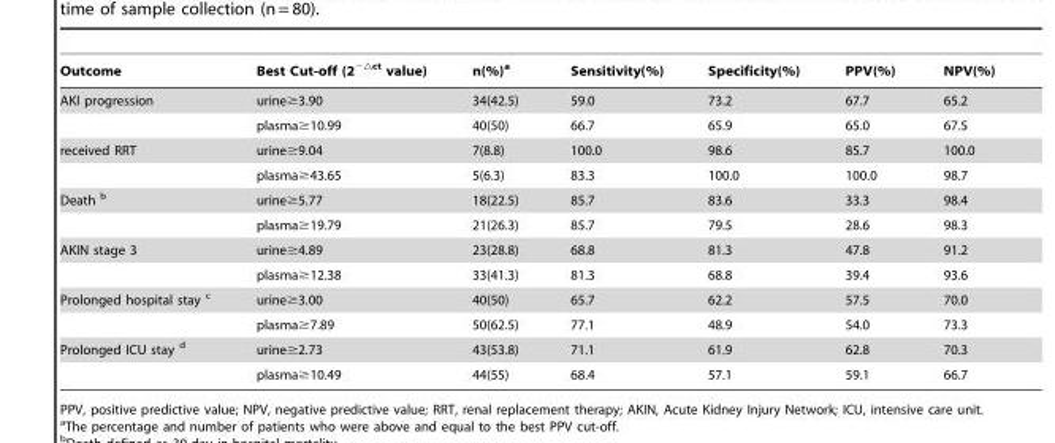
<table><thead><tr><td>Outcome</td><td>Best Cut-off (2<sup>−△ct</sup> value)</td><td>n(%)<sup>a</sup></td><td>Sensitivity(%)</td><td>Specificity(%)</td><td>PPV(%)</td><td>NPV(%)</td></tr></thead><tbody><tr><td rowspan="2">AKI progression</td><td>urine≥3.90</td><td>34(42.5)</td><td>59.0</td><td>73.2</td><td>67.7</td><td>65.2</td></tr><tr><td>plasma≥10.99</td><td>40(50)</td><td>66.7</td><td>65.9</td><td>65.0</td><td>67.5</td></tr><tr><td rowspan="2">received RRT</td><td>urine≥9.04</td><td>7(8.8)</td><td>100.0</td><td>98.6</td><td>85.7</td><td>100.0</td></tr><tr><td>plasma≥43.65</td><td>5(6.3)</td><td>83.3</td><td>100.0</td><td>100.0</td><td>98.7</td></tr><tr><td rowspan="2">Death b</td><td>urine≥5.77</td><td>18(22.5)</td><td>85.7</td><td>83.6</td><td>33.3</td><td>98.4</td></tr><tr><td>plasma≥19.79</td><td>21(26.3)</td><td>85.7</td><td>79.5</td><td>28.6</td><td>98.3</td></tr><tr><td rowspan="2">AKIN stage 3</td><td>urine≥4.89</td><td>23(28.8)</td><td>68.8</td><td>81.3</td><td>47.8</td><td>91.2</td></tr><tr><td>plasma≥12.38</td><td>33(41.3)</td><td>81.3</td><td>68.8</td><td>39.4</td><td>93.6</td></tr><tr><td rowspan="2">Prolonged hospital stay c</td><td>urine≥3.00</td><td>40(50)</td><td>65.7</td><td>62.2</td><td>57.5</td><td>70.0</td></tr><tr><td>plasma≥7.89</td><td>50(62.5)</td><td>77.1</td><td>48.9</td><td>54.0</td><td>73.3</td></tr><tr><td rowspan="2">Prolonged ICU stay d</td><td>urine≥2.73</td><td>43(53.8)</td><td>71.1</td><td>61.9</td><td>62.8</td><td>70.3</td></tr><tr><td>plasma≥10.49</td><td>44(55)</td><td>68.4</td><td>57.1</td><td>59.1</td><td>66.7</td></tr></tbody></table>